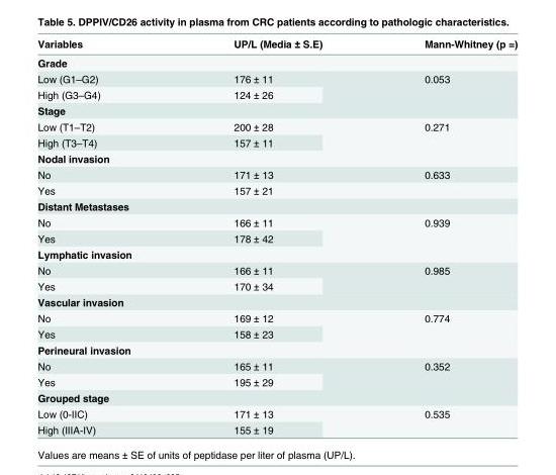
<table><thead><tr><td>Variables</td><td>UP/L (Media ± S.E)</td><td>Mann-Whitney (p =)</td></tr></thead><tbody><tr><td colspan="3">Grade</td></tr><tr><td>Low (G1–G2)</td><td>176 ± 11</td><td rowspan="2">0.053</td></tr><tr><td>High (G3–G4)</td><td>124 ± 26</td></tr><tr><td colspan="3">Stage</td></tr><tr><td>Low (T1–T2)</td><td>200 ± 28</td><td rowspan="2">0.271</td></tr><tr><td>High (T3–T4)</td><td>157 ± 11</td></tr><tr><td colspan="3">Nodal invasion</td></tr><tr><td>No</td><td>171 ± 13</td><td>0.633</td></tr><tr><td>Yes</td><td>157 ± 21</td><td></td></tr><tr><td colspan="3">Distant Metastases</td></tr><tr><td>No</td><td>166 ± 11</td><td rowspan="2">0.939</td></tr><tr><td>Yes</td><td>178 ± 42</td></tr><tr><td colspan="3">Lymphatic invasion</td></tr><tr><td>No</td><td>166 ± 11</td><td rowspan="2">0.985</td></tr><tr><td>Yes</td><td>170 ± 34</td></tr><tr><td colspan="3">Vascular invasion</td></tr><tr><td>No</td><td>169 ± 12</td><td rowspan="2">0.774</td></tr><tr><td>Yes</td><td>158 ± 23</td></tr><tr><td colspan="3">Perineural invasion</td></tr><tr><td>No</td><td>165 ± 11</td><td rowspan="2">0.352</td></tr><tr><td>Yes</td><td>195 ± 29</td></tr><tr><td colspan="3">Grouped stage</td></tr><tr><td>Low (0-IIC)</td><td>171 ± 13</td><td rowspan="2">0.535</td></tr><tr><td>High (IIIA-IV)</td><td>155 ± 19</td></tr></tbody></table>